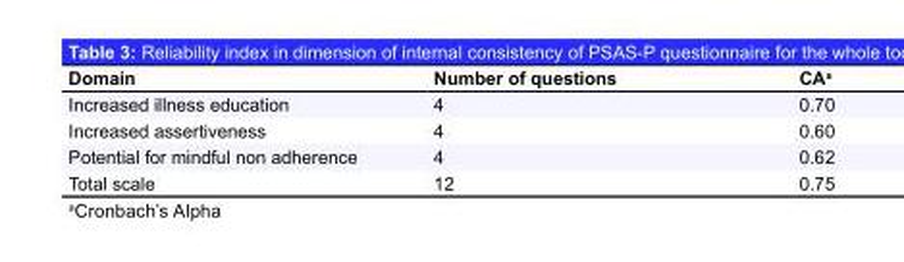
<table><thead><tr><td>Domain</td><td>Number of questions</td><td>CA<sup>a</sup></td></tr></thead><tbody><tr><td>Increased illness education</td><td>4</td><td>0.70</td></tr><tr><td>Increased assertiveness</td><td>4</td><td>0.60</td></tr><tr><td>Potential for mindful non adherence</td><td>4</td><td>0.62</td></tr><tr><td>Total scale</td><td>12</td><td>0.75</td></tr></tbody></table>